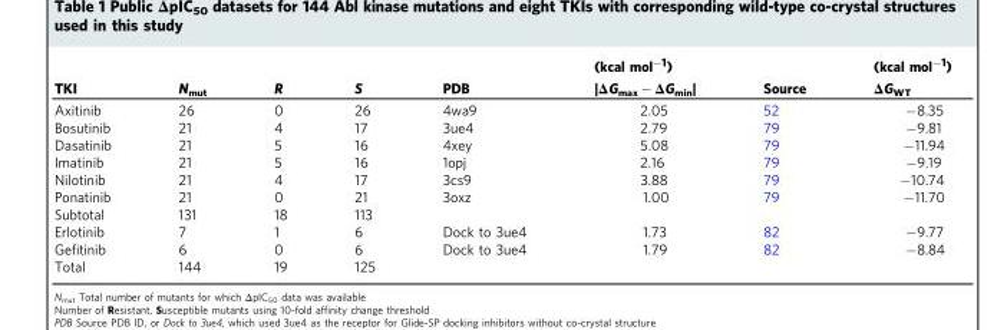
<table><thead><tr><td rowspan="2">TKI</td><td rowspan="2">N<sub>mut</sub></td><td rowspan="2">R</td><td rowspan="2">S</td><td rowspan="2">PDB</td><td rowspan="2">(kcal mol<sup>−1</sup>) |ΔG<sub>max</sub> − ΔG<sub>min</sub>|</td><td rowspan="2">Source</td><td rowspan="2">(kcal mol<sup>−1</sup>) ΔG<sub>WT</sub></td></tr><tr></tr></thead><tbody><tr><td>Axitinib</td><td>26</td><td>0</td><td>26</td><td>4wa9</td><td>2.05</td><td>52</td><td>−8.35</td></tr><tr><td>Bosutinib</td><td>21</td><td>4</td><td>17</td><td>3ue4</td><td>2.79</td><td>79</td><td>−9.81</td></tr><tr><td>Dasatinib</td><td>21</td><td>5</td><td>16</td><td>4xey</td><td>5.08</td><td>79</td><td>−11.94</td></tr><tr><td>Imatinib</td><td>21</td><td>5</td><td>16</td><td>1opj</td><td>2.16</td><td>79</td><td>−9.19</td></tr><tr><td>Nilotinib</td><td>21</td><td>4</td><td>17</td><td>3cs9</td><td>3.88</td><td>79</td><td>−10.74</td></tr><tr><td>Ponatinib</td><td>21</td><td>0</td><td>21</td><td>3oxz</td><td>1.00</td><td>79</td><td>−11.70</td></tr><tr><td>Subtotal</td><td>131</td><td>18</td><td>113</td><td></td><td></td><td></td><td></td></tr><tr><td>Erlotinib</td><td>7</td><td>1</td><td>6</td><td>Dock to 3ue4</td><td>1.73</td><td>82</td><td>−9.77</td></tr><tr><td>Gefitinib</td><td>6</td><td>0</td><td>6</td><td>Dock to 3ue4</td><td>1.79</td><td>82</td><td>−8.84</td></tr><tr><td>Total</td><td>144</td><td>19</td><td>125</td><td></td><td></td><td></td><td></td></tr></tbody></table>